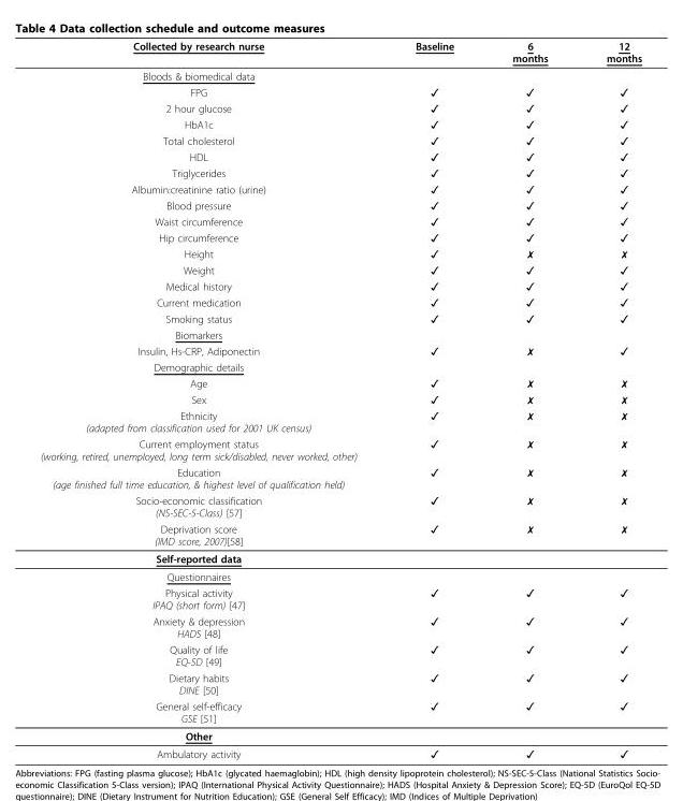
<table><thead><tr><td>Collected by research nurse</td><td>Baseline</td><td>6 months</td><td>12 months</td></tr></thead><tbody><tr><td colspan="4">Bloods &amp; biomedical data</td></tr><tr><td>FPG</td><td>✓</td><td>✓</td><td>✓</td></tr><tr><td>2 hour glucose</td><td>✓</td><td>✓</td><td>✓</td></tr><tr><td>HbA1c</td><td>✓</td><td>✓</td><td>✓</td></tr><tr><td>Total cholesterol</td><td>✓</td><td>✓</td><td>✓</td></tr><tr><td>HDL</td><td>✓</td><td>✓</td><td>✓</td></tr><tr><td>Triglycerides</td><td>✓</td><td>✓</td><td>✓</td></tr><tr><td>Albumin:creatinine ratio (urine)</td><td>✓</td><td>✓</td><td>✓</td></tr><tr><td>Blood pressure</td><td>✓</td><td>✓</td><td>✓</td></tr><tr><td>Waist circumference</td><td>✓</td><td>✓</td><td>✓</td></tr><tr><td>Hip circumference</td><td>✓</td><td>✓</td><td>✓</td></tr><tr><td>Height</td><td>✓</td><td>✗</td><td>✗</td></tr><tr><td>Weight</td><td>✓</td><td>✓</td><td>✓</td></tr><tr><td>Medical history</td><td>✓</td><td>✓</td><td>✓</td></tr><tr><td>Current medication</td><td>✓</td><td>✓</td><td>✓</td></tr><tr><td>Smoking status</td><td>✓</td><td>✓</td><td>✓</td></tr><tr><td colspan="4">Biomarkers</td></tr><tr><td>Insulin, Hs-CRP, Adiponectin</td><td>✓</td><td>✗</td><td>✓</td></tr><tr><td colspan="4">Demographic details</td></tr><tr><td>Age</td><td>✓</td><td>✗</td><td>✗</td></tr><tr><td>Sex</td><td>✓</td><td>✗</td><td>✗</td></tr><tr><td>Ethnicity (adapted from classification used for 2001 UK census)</td><td>✓</td><td>✗</td><td>✗</td></tr><tr><td>Current employment status (working, retired, unemployed, long term sick/disabled, never worked, other)</td><td>✓</td><td>✗</td><td>✗</td></tr><tr><td>Education (age finished full time education, &amp; highest level of qualification held)</td><td>✓</td><td>✗</td><td>✗</td></tr><tr><td>Socio-economic classification (NS-SEC-5-Class) [57]</td><td>✓</td><td>✗</td><td>✗</td></tr><tr><td>Deprivation score (IMD score, 2007)[58]</td><td>✓</td><td>✗</td><td>✗</td></tr><tr><td colspan="4">Self-reported data</td></tr><tr><td colspan="4">Questionnaires</td></tr><tr><td>Physical activity IPAQ (short form) [47]</td><td>✓</td><td>✓</td><td>✓</td></tr><tr><td>Anxiety &amp; depression HADS [48]</td><td>✓</td><td>✓</td><td>✓</td></tr><tr><td>Quality of life EQ-5D [49]</td><td>✓</td><td>✓</td><td>✓</td></tr><tr><td>Dietary habits DINE [50]</td><td>✓</td><td>✓</td><td>✓</td></tr><tr><td>General self-efficacy GSE [51]</td><td>✓</td><td>✓</td><td>✓</td></tr><tr><td colspan="4">Other</td></tr><tr><td>Ambulatory activity</td><td>✓</td><td>✓</td><td>✓</td></tr></tbody></table>